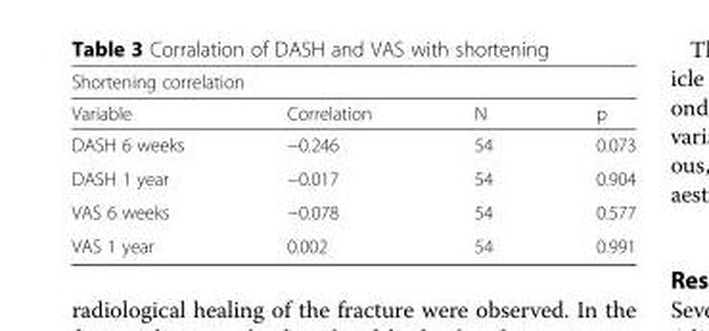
<table><thead><tr><td colspan="4">Shortening correlation</td></tr><tr><td>Variable</td><td>Correlation</td><td>N</td><td>p</td></tr></thead><tbody><tr><td>DASH 6 weeks</td><td>−0.246</td><td>54</td><td>0.073</td></tr><tr><td>DASH 1 year</td><td>−0.017</td><td>54</td><td>0.904</td></tr><tr><td>VAS 6 weeks</td><td>−0.078</td><td>54</td><td>0.577</td></tr><tr><td>VAS 1 year</td><td>0.002</td><td>54</td><td>0.991</td></tr></tbody></table>